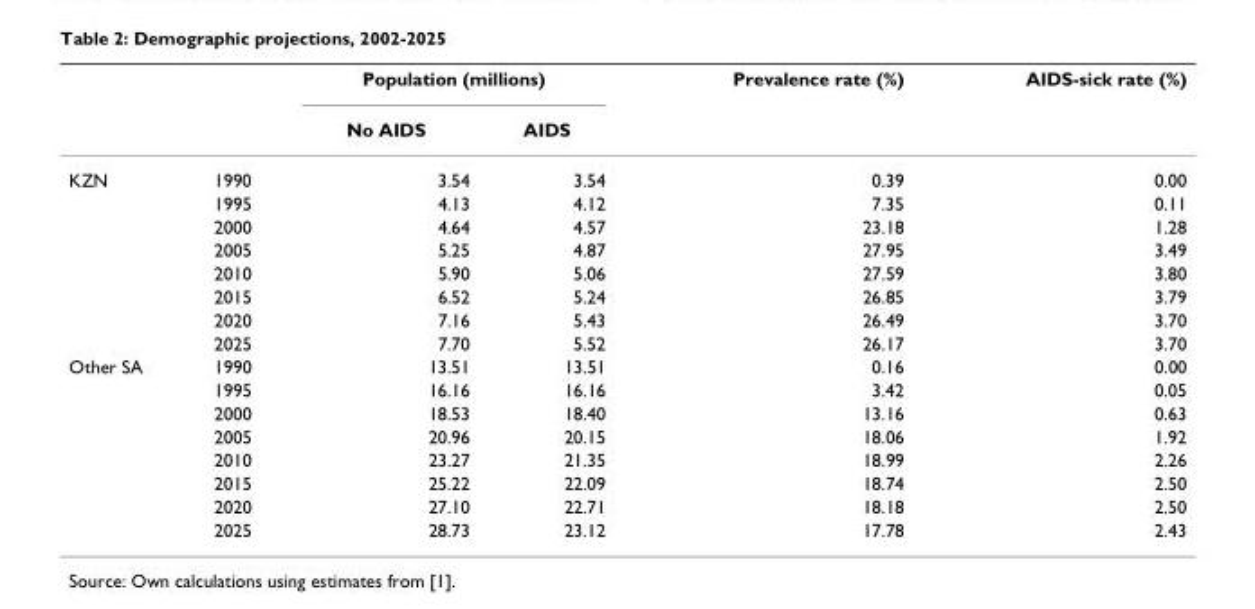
<table><thead><tr><td rowspan="2"></td><td rowspan="2"></td><td colspan="2">Population (millions)</td><td rowspan="2">Prevalence rate (%)</td><td rowspan="2">AIDS-sick rate (%)</td></tr><tr><td>No AIDS</td><td>AIDS</td></tr></thead><tbody><tr><td rowspan="8">KZN</td><td>1990</td><td>3.54</td><td>3.54</td><td>0.39</td><td>0.00</td></tr><tr><td>1995</td><td>4.13</td><td>4.12</td><td>7.35</td><td>0.11</td></tr><tr><td>2000</td><td>4.64</td><td>4.57</td><td>23.18</td><td>1.28</td></tr><tr><td>2005</td><td>5.25</td><td>4.87</td><td>27.95</td><td>3.49</td></tr><tr><td>2010</td><td>5.90</td><td>5.06</td><td>27.59</td><td>3.80</td></tr><tr><td>2015</td><td>6.52</td><td>5.24</td><td>26.85</td><td>3.79</td></tr><tr><td>2020</td><td>7.16</td><td>5.43</td><td>26.49</td><td>3.70</td></tr><tr><td>2025</td><td>7.70</td><td>5.52</td><td>26.17</td><td>3.70</td></tr><tr><td rowspan="8">Other SA</td><td>1990</td><td>13.51</td><td>13.51</td><td>0.16</td><td>0.00</td></tr><tr><td>1995</td><td>16.16</td><td>16.16</td><td>3.42</td><td>0.05</td></tr><tr><td>2000</td><td>18.53</td><td>18.40</td><td>13.16</td><td>0.63</td></tr><tr><td>2005</td><td>20.96</td><td>20.15</td><td>18.06</td><td>1.92</td></tr><tr><td>2010</td><td>23.27</td><td>21.35</td><td>18.99</td><td>2.26</td></tr><tr><td>2015</td><td>25.22</td><td>22.09</td><td>18.74</td><td>2.50</td></tr><tr><td>2020</td><td>27.10</td><td>22.71</td><td>18.18</td><td>2.50</td></tr><tr><td>2025</td><td>28.73</td><td>23.12</td><td>17.78</td><td>2.43</td></tr></tbody></table>